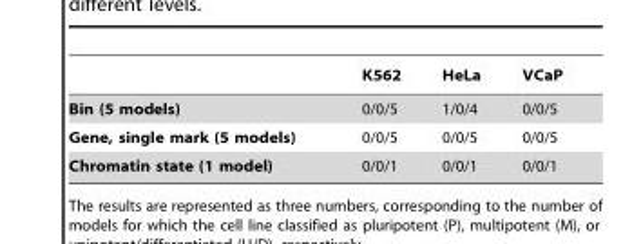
<table><thead><tr><td></td><td>K562</td><td>HeLa</td><td>VCaP</td></tr></thead><tbody><tr><td>Bin (5 models)</td><td>0/0/5</td><td>1/0/4</td><td>0/0/5</td></tr><tr><td>Gene, single mark (5 models)</td><td>0/0/5</td><td>0/0/5</td><td>0/0/5</td></tr><tr><td>Chromatin state (1 model)</td><td>0/0/1</td><td>0/0/1</td><td>0/0/1</td></tr></tbody></table>